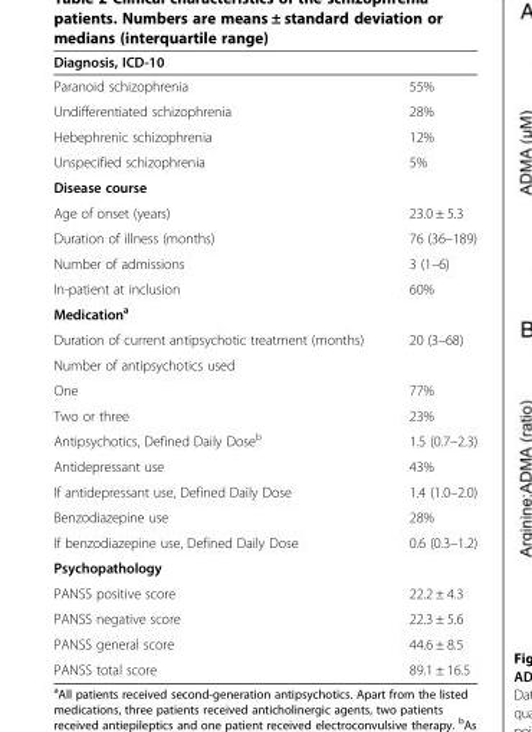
<table><thead><tr><td>Diagnosis, ICD-10</td><td></td></tr></thead><tbody><tr><td>Paranoid schizophrenia</td><td>55%</td></tr><tr><td>Undifferentiated schizophrenia</td><td>28%</td></tr><tr><td>Hebephrenic schizophrenia</td><td>12%</td></tr><tr><td>Unspecified schizophrenia</td><td>5%</td></tr><tr><td colspan="2">Disease course</td></tr><tr><td>Age of onset (years)</td><td>23.0 ± 5.3</td></tr><tr><td>Duration of illness (months)</td><td>76 (36–189)</td></tr><tr><td>Number of admissions</td><td>3 (1–6)</td></tr><tr><td>In-patient at inclusion</td><td>60%</td></tr><tr><td colspan="2">Medication<sup>a</sup></td></tr><tr><td>Duration of current antipsychotic treatment (months)</td><td>20 (3–68)</td></tr><tr><td colspan="2">Number of antipsychotics used</td></tr><tr><td>One</td><td>77%</td></tr><tr><td>Two or three</td><td>23%</td></tr><tr><td>Antipsychotics, Defined Daily Dose<sup>b</sup></td><td>1.5 (0.7–2.3)</td></tr><tr><td>Antidepressant use</td><td>43%</td></tr><tr><td>If antidepressant use, Defined Daily Dose</td><td>1.4 (1.0–2.0)</td></tr><tr><td>Benzodiazepine use</td><td>28%</td></tr><tr><td>If benzodiazepine use, Defined Daily Dose</td><td>0.6 (0.3–1.2)</td></tr><tr><td colspan="2">Psychopathology</td></tr><tr><td>PANSS positive score</td><td>22.2 ± 4.3</td></tr><tr><td>PANSS negative score</td><td>22.3 ± 5.6</td></tr><tr><td>PANSS general score</td><td>44.6 ± 8.5</td></tr><tr><td>PANSS total score</td><td>89.1 ± 16.5</td></tr></tbody></table>